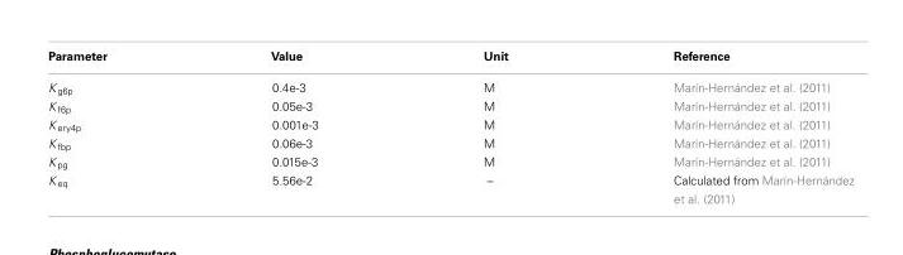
<table><thead><tr><td>Parameter</td><td>Value</td><td>Unit</td><td>Reference</td></tr></thead><tbody><tr><td>K <sub>g6p</sub></td><td>0.4e-3</td><td>M</td><td>Marín-Hernández et al. (2011)</td></tr><tr><td>K <sub>f6p</sub></td><td>0.05e-3</td><td>M</td><td>Marín-Hernández et al. (2011)</td></tr><tr><td>K <sub>ery4p</sub></td><td>0.001e-3</td><td>M</td><td>Marín-Hernández et al. (2011)</td></tr><tr><td>K <sub>fbp</sub></td><td>0.06e-3</td><td>M</td><td>Marín-Hernández et al. (2011)</td></tr><tr><td>K <sub>pg</sub></td><td>0.015e-3</td><td>M</td><td>Marín-Hernández et al. (2011)</td></tr><tr><td>K <sub>eq</sub></td><td>5.56e-2</td><td>–</td><td>Calculated from Marín-Hernández et al. (2011)</td></tr></tbody></table>